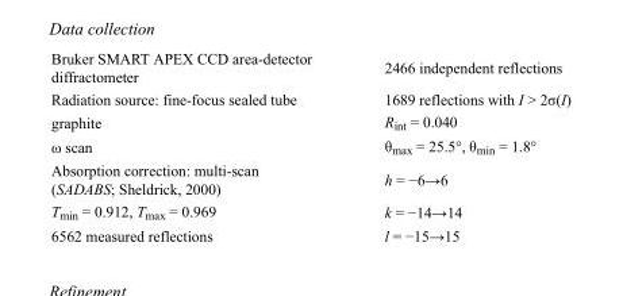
<table><tbody><tr><td>Bruker SMART APEX CCD area-detector diffractometer</td><td>2466 independent reflections</td></tr><tr><td>Radiation source: fine-focus sealed tube</td><td>1689 reflections with I &gt; 2σ(I)</td></tr><tr><td>graphite</td><td>R<sub>int</sub> = 0.040</td></tr><tr><td>ω scan</td><td>θ<sub>max</sub> = 25.5°, θ<sub>min</sub> = 1.8°</td></tr><tr><td>Absorption correction: multi-scan (SADABS; Sheldrick, 2000)</td><td>h = −6→6</td></tr><tr><td>T<sub>min</sub> = 0.912, T<sub>max</sub> = 0.969</td><td>k = −14→14</td></tr><tr><td>6562 measured reflections</td><td>l = −15→15</td></tr></tbody></table>